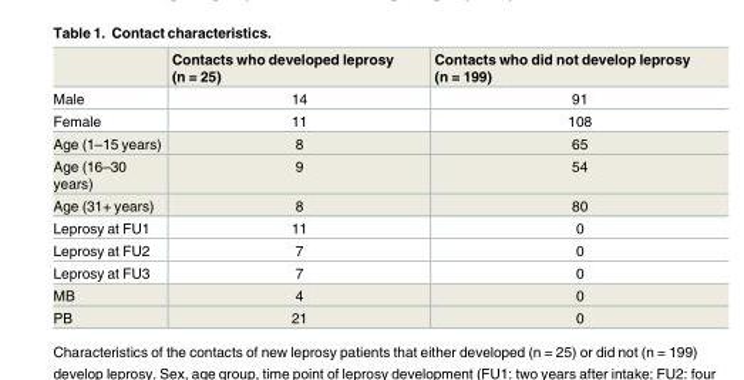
<table><thead><tr><td></td><td>Contacts who developed leprosy (n = 25)</td><td>Contacts who did not develop leprosy (n = 199)</td></tr></thead><tbody><tr><td>Male</td><td>14</td><td>91</td></tr><tr><td>Female</td><td>11</td><td>108</td></tr><tr><td>Age (1–15 years)</td><td>8</td><td>65</td></tr><tr><td>Age (16–30 years)</td><td>9</td><td>54</td></tr><tr><td>Age (31+ years)</td><td>8</td><td>80</td></tr><tr><td>Leprosy at FU1</td><td>11</td><td>0</td></tr><tr><td>Leprosy at FU2</td><td>7</td><td>0</td></tr><tr><td>Leprosy at FU3</td><td>7</td><td>0</td></tr><tr><td>MB</td><td>4</td><td>0</td></tr><tr><td>PB</td><td>21</td><td>0</td></tr></tbody></table>